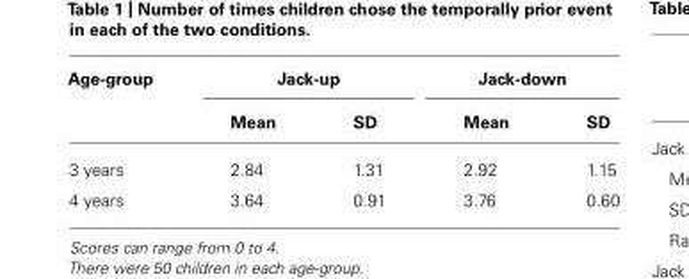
<table><thead><tr><td rowspan="2">Age-group</td><td colspan="2">Jack-up</td><td colspan="2">Jack-down</td></tr><tr><td>Mean</td><td>SD</td><td>Mean</td><td>SD</td></tr></thead><tbody><tr><td>3 years</td><td>2.84</td><td>1.31</td><td>2.92</td><td>1.15</td></tr><tr><td>4 years</td><td>3.64</td><td>0.91</td><td>3.76</td><td>0.60</td></tr></tbody></table>